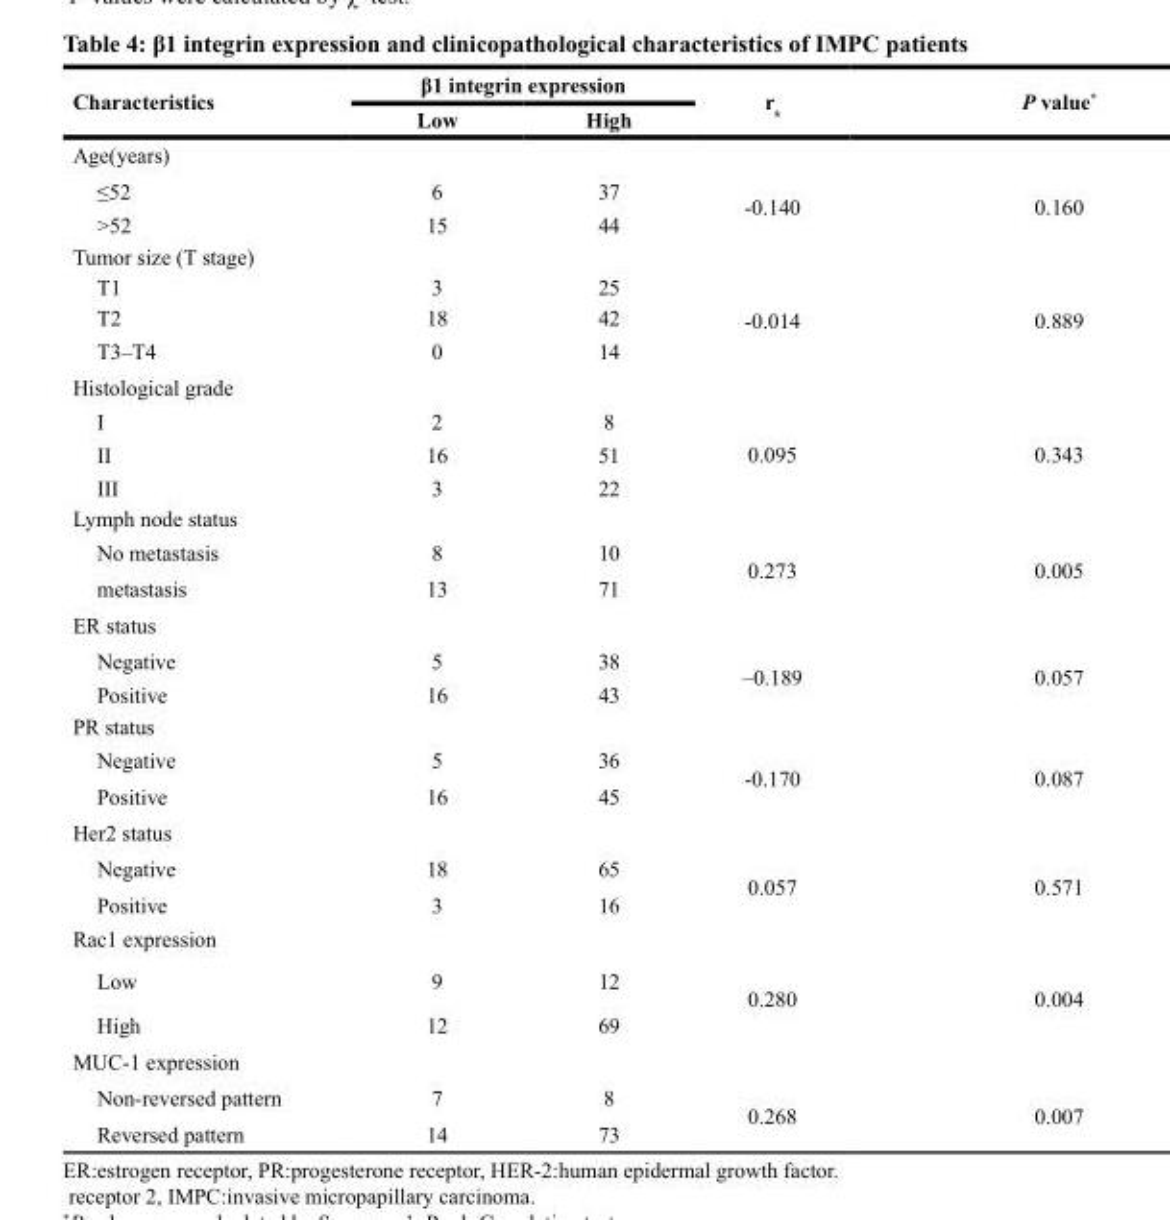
<table><thead><tr><td rowspan="2">Characteristics</td><td colspan="2">β1 integrin expression</td><td rowspan="2">r<sub>s</sub></td><td rowspan="2">P value*</td></tr><tr><td>Low</td><td>High</td></tr></thead><tbody><tr><td colspan="5">Age(years)</td></tr><tr><td>≤52</td><td>6</td><td>37</td><td rowspan="2">-0.140</td><td rowspan="2">0.160</td></tr><tr><td>﹥52</td><td>15</td><td>44</td></tr><tr><td colspan="5">Tumor size (T stage)</td></tr><tr><td>T1</td><td>3</td><td>25</td><td rowspan="3">-0.014</td><td rowspan="3">0.889</td></tr><tr><td>T2</td><td>18</td><td>42</td></tr><tr><td>T3–T4</td><td>0</td><td>14</td></tr><tr><td colspan="5">Histological grade</td></tr><tr><td>I</td><td>2</td><td>8</td><td rowspan="3">0.095</td><td rowspan="3">0.343</td></tr><tr><td>II</td><td>16</td><td>51</td></tr><tr><td>III</td><td>3</td><td>22</td></tr><tr><td colspan="5">Lymph node status</td></tr><tr><td>No metastasis</td><td>8</td><td>10</td><td rowspan="2">0.273</td><td rowspan="2">0.005</td></tr><tr><td>metastasis</td><td>13</td><td>71</td></tr><tr><td colspan="5">ER status</td></tr><tr><td>Negative</td><td>5</td><td>38</td><td rowspan="2">–0.189</td><td rowspan="2">0.057</td></tr><tr><td>Positive</td><td>16</td><td>43</td></tr><tr><td colspan="5">PR status</td></tr><tr><td>Negative</td><td>5</td><td>36</td><td rowspan="2">-0.170</td><td rowspan="2">0.087</td></tr><tr><td>Positive</td><td>16</td><td>45</td></tr><tr><td colspan="5">Her2 status</td></tr><tr><td>Negative</td><td>18</td><td>65</td><td rowspan="2">0.057</td><td rowspan="2">0.571</td></tr><tr><td>Positive</td><td>3</td><td>16</td></tr><tr><td colspan="5">Rac1 expression</td></tr><tr><td>Low</td><td>9</td><td>12</td><td rowspan="2">0.280</td><td rowspan="2">0.004</td></tr><tr><td>High</td><td>12</td><td>69</td></tr><tr><td colspan="5">MUC-1 expression</td></tr><tr><td>Non-reversed pattern</td><td>7</td><td>8</td><td rowspan="2">0.268</td><td rowspan="2">0.007</td></tr><tr><td>Reversed pattern</td><td>14</td><td>73</td></tr></tbody></table>